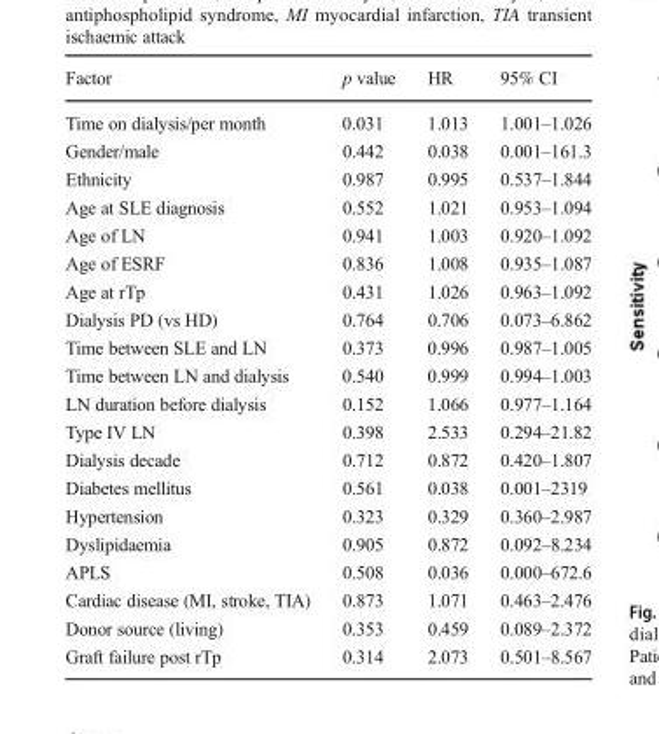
<table><thead><tr><td>Factor</td><td>p value</td><td>HR</td><td>95% CI</td></tr></thead><tbody><tr><td>Time on dialysis/per month</td><td>0.031</td><td>1.013</td><td>1.001–1.026</td></tr><tr><td>Gender/male</td><td>0.442</td><td>0.038</td><td>0.001–161.3</td></tr><tr><td>Ethnicity</td><td>0.987</td><td>0.995</td><td>0.537–1.844</td></tr><tr><td>Age at SLE diagnosis</td><td>0.552</td><td>1.021</td><td>0.953–1.094</td></tr><tr><td>Age of LN</td><td>0.941</td><td>1.003</td><td>0.920–1.092</td></tr><tr><td>Age of ESRF</td><td>0.836</td><td>1.008</td><td>0.935–1.087</td></tr><tr><td>Age at rTp</td><td>0.431</td><td>1.026</td><td>0.963–1.092</td></tr><tr><td>Dialysis PD (vs HD)</td><td>0.764</td><td>0.706</td><td>0.073–6.862</td></tr><tr><td>Time between SLE and LN</td><td>0.373</td><td>0.996</td><td>0.987–1.005</td></tr><tr><td>Time between LN and dialysis</td><td>0.540</td><td>0.999</td><td>0.994–1.003</td></tr><tr><td>LN duration before dialysis</td><td>0.152</td><td>1.066</td><td>0.977–1.164</td></tr><tr><td>Type IV LN</td><td>0.398</td><td>2.533</td><td>0.294–21.82</td></tr><tr><td>Dialysis decade</td><td>0.712</td><td>0.872</td><td>0.420–1.807</td></tr><tr><td>Diabetes mellitus</td><td>0.561</td><td>0.038</td><td>0.001–2319</td></tr><tr><td>Hypertension</td><td>0.323</td><td>0.329</td><td>0.360–2.987</td></tr><tr><td>Dyslipidaemia</td><td>0.905</td><td>0.872</td><td>0.092–8.234</td></tr><tr><td>APLS</td><td>0.508</td><td>0.036</td><td>0.000–672.6</td></tr><tr><td>Cardiac disease (MI, stroke, TIA)</td><td>0.873</td><td>1.071</td><td>0.463–2.476</td></tr><tr><td>Donor source (living)</td><td>0.353</td><td>0.459</td><td>0.089–2.372</td></tr><tr><td>Graft failure post rTp</td><td>0.314</td><td>2.073</td><td>0.501–8.567</td></tr></tbody></table>